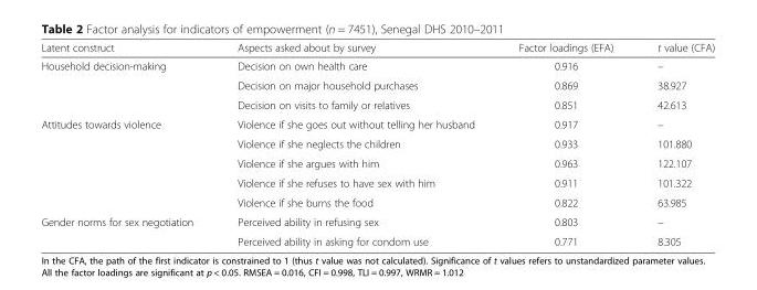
<table><thead><tr><td>Latent construct</td><td>Aspects asked about by survey</td><td>Factor loadings (EFA)</td><td>t value (CFA)</td></tr></thead><tbody><tr><td rowspan="3">Household decision-making</td><td>Decision on own health care</td><td>0.916</td><td>–</td></tr><tr><td>Decision on major household purchases</td><td>0.869</td><td>38.927</td></tr><tr><td>Decision on visits to family or relatives</td><td>0.851</td><td>42.613</td></tr><tr><td rowspan="5">Attitudes towards violence</td><td>Violence if she goes out without telling her husband</td><td>0.917</td><td>–</td></tr><tr><td>Violence if she neglects the children</td><td>0.933</td><td>101.880</td></tr><tr><td>Violence if she argues with him</td><td>0.963</td><td>122.107</td></tr><tr><td>Violence if she refuses to have sex with him</td><td>0.911</td><td>101.322</td></tr><tr><td>Violence if she burns the food</td><td>0.822</td><td>63.985</td></tr><tr><td rowspan="2">Gender norms for sex negotiation</td><td>Perceived ability in refusing sex</td><td>0.803</td><td>–</td></tr><tr><td>Perceived ability in asking for condom use</td><td>0.771</td><td>8.305</td></tr></tbody></table>